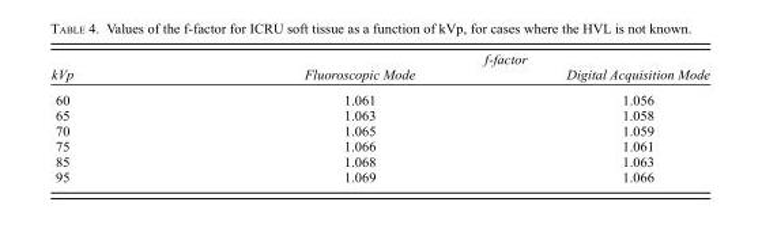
<table><thead><tr><td rowspan="2">kVp</td><td colspan="2">f-factor</td></tr><tr><td>Fluoroscopic Mode</td><td>Digital Acquisition Mode</td></tr></thead><tbody><tr><td>60</td><td>1.061</td><td>1.056</td></tr><tr><td>65</td><td>1.063</td><td>1.058</td></tr><tr><td>70</td><td>1.065</td><td>1.059</td></tr><tr><td>75</td><td>1.066</td><td>1.061</td></tr><tr><td>85</td><td>1.068</td><td>1.063</td></tr><tr><td>95</td><td>1.069</td><td>1.066</td></tr></tbody></table>